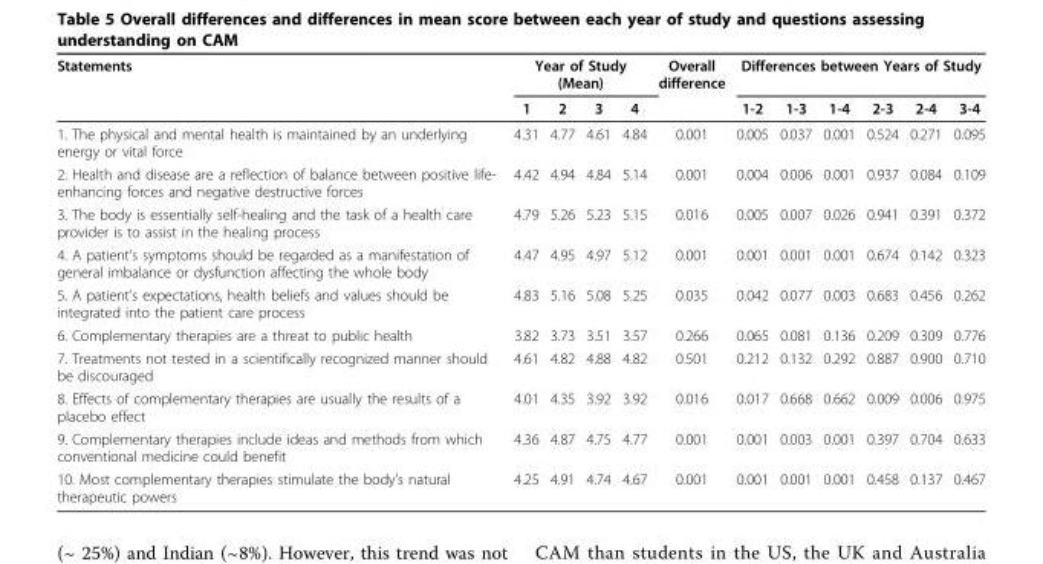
<table><thead><tr><td rowspan="2">Statements</td><td colspan="4">Year of Study (Mean)</td><td rowspan="2">Overall difference</td><td colspan="6">Differences between Years of Study</td></tr><tr><td>1</td><td>2</td><td>3</td><td>4</td><td>1-2</td><td>1-3</td><td>1-4</td><td>2-3</td><td>2-4</td><td>3-4</td></tr></thead><tbody><tr><td>1. The physical and mental health is maintained by an underlying energy or vital force</td><td>4.31</td><td>4.77</td><td>4.61</td><td>4.84</td><td>0.001</td><td>0.005</td><td>0.037</td><td>0.001</td><td>0.524</td><td>0.271</td><td>0.095</td></tr><tr><td>2. Health and disease are a reflection of balance between positive life- enhancing forces and negative destructive forces</td><td>4.42</td><td>4.94</td><td>4.84</td><td>5.14</td><td>0.001</td><td>0.004</td><td>0.006</td><td>0.001</td><td>0.937</td><td>0.084</td><td>0.109</td></tr><tr><td>3. The body is essentially self-healing and the task of a health care provider is to assist in the healing process</td><td>4.79</td><td>5.26</td><td>5.23</td><td>5.15</td><td>0.016</td><td>0.005</td><td>0.007</td><td>0.026</td><td>0.941</td><td>0.391</td><td>0.372</td></tr><tr><td>4. A patient’s symptoms should be regarded as a manifestation of general imbalance or dysfunction affecting the whole body</td><td>4.47</td><td>4.95</td><td>4.97</td><td>5.12</td><td>0.001</td><td>0.001</td><td>0.001</td><td>0.001</td><td>0.674</td><td>0.142</td><td>0.323</td></tr><tr><td>5. A patient’s expectations, health beliefs and values should be integrated into the patient care process</td><td>4.83</td><td>5.16</td><td>5.08</td><td>5.25</td><td>0.035</td><td>0.042</td><td>0.077</td><td>0.003</td><td>0.683</td><td>0.456</td><td>0.262</td></tr><tr><td>6. Complementary therapies are a threat to public health</td><td>3.82</td><td>3.73</td><td>3.51</td><td>3.57</td><td>0.266</td><td>0.065</td><td>0.081</td><td>0.136</td><td>0.209</td><td>0.309</td><td>0.776</td></tr><tr><td>7. Treatments not tested in a scientifically recognized manner should be discouraged</td><td>4.61</td><td>4.82</td><td>4.88</td><td>4.82</td><td>0.501</td><td>0.212</td><td>0.132</td><td>0.292</td><td>0.887</td><td>0.900</td><td>0.710</td></tr><tr><td>8. Effects of complementary therapies are usually the results of a placebo effect</td><td>4.01</td><td>4.35</td><td>3.92</td><td>3.92</td><td>0.016</td><td>0.017</td><td>0.668</td><td>0.662</td><td>0.009</td><td>0.006</td><td>0.975</td></tr><tr><td>9. Complementary therapies include ideas and methods from which conventional medicine could benefit</td><td>4.36</td><td>4.87</td><td>4.75</td><td>4.77</td><td>0.001</td><td>0.001</td><td>0.003</td><td>0.001</td><td>0.397</td><td>0.704</td><td>0.633</td></tr><tr><td>10. Most complementary therapies stimulate the body’s natural therapeutic powers</td><td>4.25</td><td>4.91</td><td>4.74</td><td>4.67</td><td>0.001</td><td>0.001</td><td>0.001</td><td>0.001</td><td>0.458</td><td>0.137</td><td>0.467</td></tr></tbody></table>